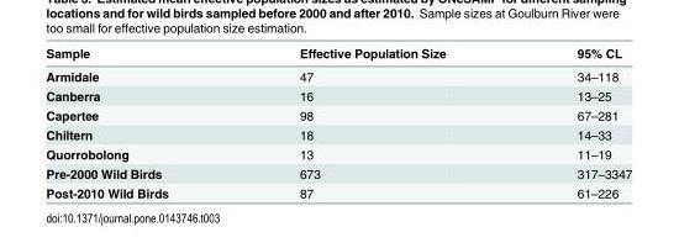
<table><thead><tr><td>Sample</td><td>Effective Population Size</td><td>95% CL</td></tr></thead><tbody><tr><td>Armidale</td><td>47</td><td>34–118</td></tr><tr><td>Canberra</td><td>16</td><td>13–25</td></tr><tr><td>Capertee</td><td>98</td><td>67–281</td></tr><tr><td>Chiltern</td><td>18</td><td>14–33</td></tr><tr><td>Quorrobolong</td><td>13</td><td>11–19</td></tr><tr><td>Pre-2000 Wild Birds</td><td>673</td><td>317–3347</td></tr><tr><td>Post-2010 Wild Birds</td><td>87</td><td>61–226</td></tr></tbody></table>